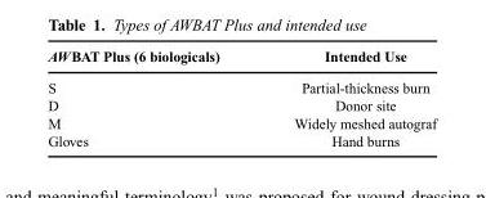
<table><thead><tr><td>AWBAT Plus (6 biologicals)</td><td>Intended Use</td></tr></thead><tbody><tr><td>S</td><td>Partial-thickness burn</td></tr><tr><td>D</td><td>Donor site</td></tr><tr><td>M</td><td>Widely meshed autograf</td></tr><tr><td>Gloves</td><td>Hand burns</td></tr></tbody></table>